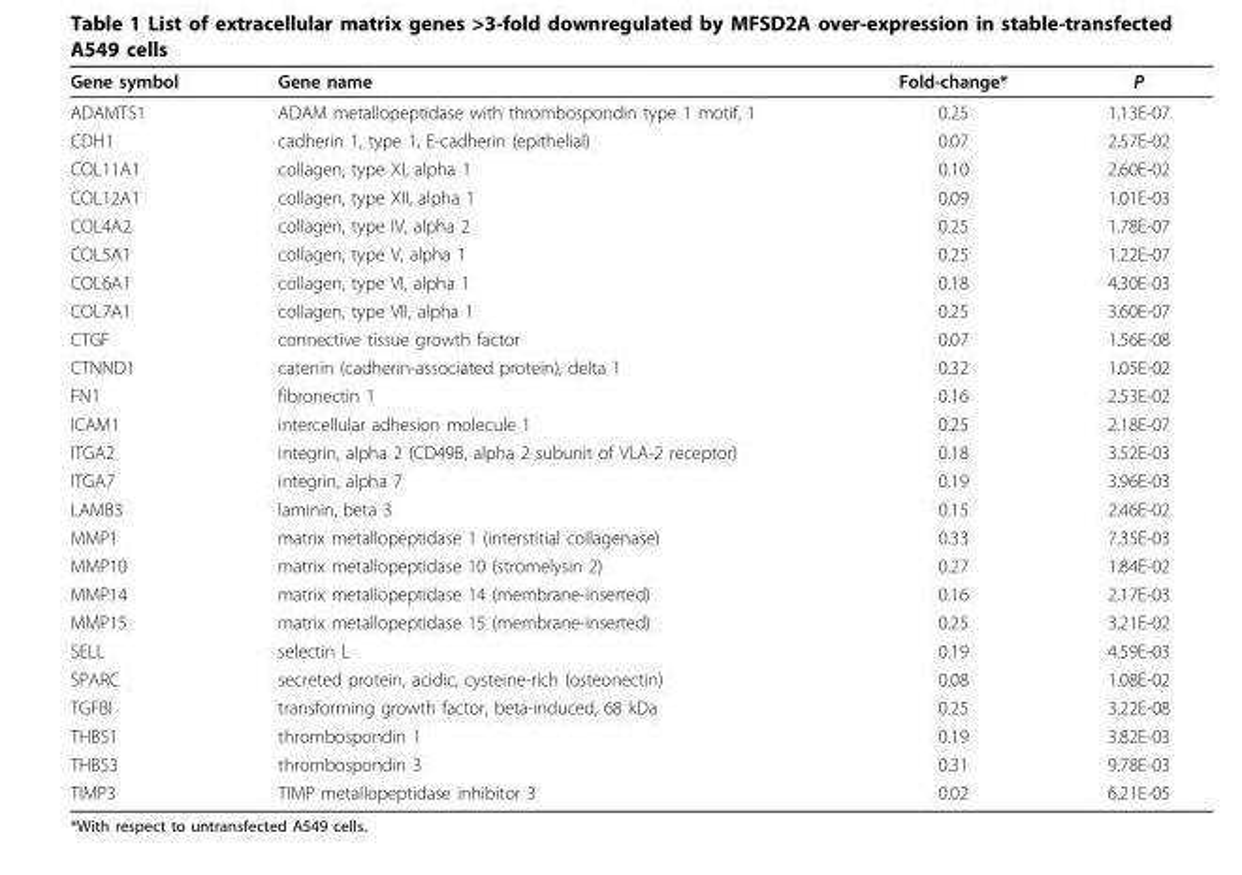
<table><thead><tr><td>Gene symbol</td><td>Gene name</td><td>Fold-change*</td><td>P</td></tr></thead><tbody><tr><td>ADAMTS1</td><td>ADAM metallopeptidase with thrombospondin type 1 motif, 1</td><td>0.25</td><td>1.13E-07</td></tr><tr><td>CDH1</td><td>cadherin 1, type 1, E-cadherin (epithelial)</td><td>0.07</td><td>2.57E-02</td></tr><tr><td>COL11A1</td><td>collagen, type XI, alpha 1</td><td>0.10</td><td>2.60E-02</td></tr><tr><td>COL12A1</td><td>collagen, type XII, alpha 1</td><td>0.09</td><td>1.01E-03</td></tr><tr><td>COL4A2</td><td>collagen, type IV, alpha 2</td><td>0.25</td><td>1.78E-07</td></tr><tr><td>COL5A1</td><td>collagen, type V, alpha 1</td><td>0.25</td><td>1.22E-07</td></tr><tr><td>COL6A1</td><td>collagen, type VI, alpha 1</td><td>0.18</td><td>4.30E-03</td></tr><tr><td>COL7A1</td><td>collagen, type VII, alpha 1</td><td>0.25</td><td>3.60E-07</td></tr><tr><td>CTGF</td><td>connective tissue growth factor</td><td>0.07</td><td>1.56E-08</td></tr><tr><td>CTNND1</td><td>catenin (cadherin-associated protein), delta 1</td><td>0.32</td><td>1.05E-02</td></tr><tr><td>FN1</td><td>fibronectin 1</td><td>0.16</td><td>2.53E-02</td></tr><tr><td>ICAM1</td><td>intercellular adhesion molecule 1</td><td>0.25</td><td>2.18E-07</td></tr><tr><td>ITGA2</td><td>integrin, alpha 2 (CD49B, alpha 2 subunit of VLA-2 receptor)</td><td>0.18</td><td>3.52E-03</td></tr><tr><td>ITGA7</td><td>integrin, alpha 7</td><td>0.19</td><td>3.96E-03</td></tr><tr><td>LAMB3</td><td>laminin, beta 3</td><td>0.15</td><td>2.46E-02</td></tr><tr><td>MMP1</td><td>matrix metallopeptidase 1 (interstitial collagenase)</td><td>0.33</td><td>7.35E-03</td></tr><tr><td>MMP10</td><td>matrix metallopeptidase 10 (stromelysin 2)</td><td>0.27</td><td>1.84E-02</td></tr><tr><td>MMP14</td><td>matrix metallopeptidase 14 (membrane-inserted)</td><td>0.16</td><td>2.17E-03</td></tr><tr><td>MMP15</td><td>matrix metallopeptidase 15 (membrane-inserted)</td><td>0.25</td><td>3.21E-02</td></tr><tr><td>SELL</td><td>selectin L</td><td>0.19</td><td>4.59E-03</td></tr><tr><td>SPARC</td><td>secreted protein, acidic, cysteine-rich (osteonectin)</td><td>0.08</td><td>1.08E-02</td></tr><tr><td>TGFBI</td><td>transforming growth factor, beta-induced, 68 kDa</td><td>0.25</td><td>3.22E-08</td></tr><tr><td>THBS1</td><td>thrombospondin 1</td><td>0.19</td><td>3.82E-03</td></tr><tr><td>THBS3</td><td>thrombospondin 3</td><td>0.31</td><td>9.78E-03</td></tr><tr><td>TIMP3</td><td>TIMP metallopeptidase inhibitor 3</td><td>0.02</td><td>6.21E-05</td></tr></tbody></table>